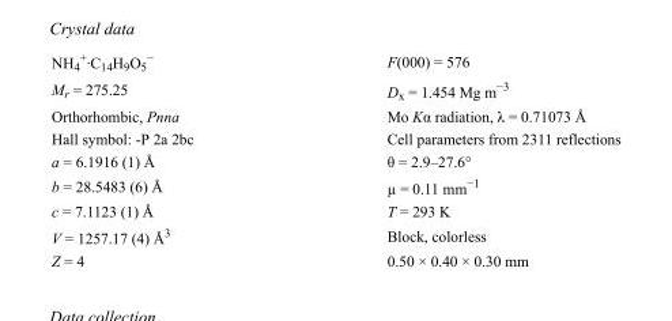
<table><tbody><tr><td>NH<sub>4</sub> <sup>+</sup>·C<sub>14</sub>H<sub>9</sub>O<sub>5</sub> <sup>−</sup></td><td>F(000) = 576</td></tr><tr><td>M<sub>r</sub> = 275.25</td><td>D<sub>x</sub> = 1.454 Mg m<sup>−3</sup></td></tr><tr><td>Orthorhombic, Pnna</td><td>Mo Kα radiation, λ = 0.71073 Å</td></tr><tr><td>Hall symbol: -P 2a 2bc</td><td>Cell parameters from 2311 reflections</td></tr><tr><td>a = 6.1916 (1) Å</td><td>θ = 2.9–27.6°</td></tr><tr><td>b = 28.5483 (6) Å</td><td>µ = 0.11 mm<sup>−1</sup></td></tr><tr><td>c = 7.1123 (1) Å</td><td>T = 293 K</td></tr><tr><td>V = 1257.17 (4) Å<sup>3</sup></td><td>Block, colorless</td></tr><tr><td>Z = 4</td><td>0.50 × 0.40 × 0.30 mm</td></tr></tbody></table>